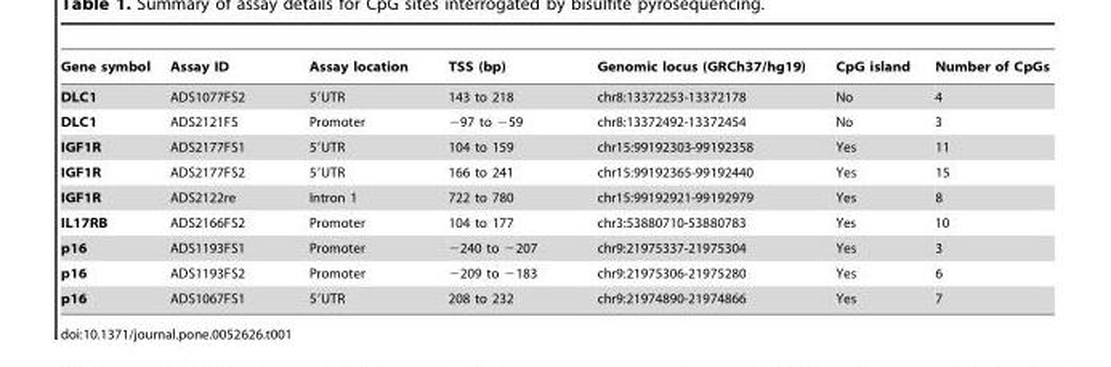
<table><thead><tr><td>Gene symbol</td><td>Assay ID</td><td>Assay location</td><td>TSS (bp)</td><td>Genomic locus (GRCh37/hg19)</td><td>CpG island</td><td>Number of CpGs</td></tr></thead><tbody><tr><td>DLC1</td><td>ADS1077FS2</td><td>5′UTR</td><td>143 to 218</td><td>chr8:13372253-13372178</td><td>No</td><td>4</td></tr><tr><td>DLC1</td><td>ADS2121FS</td><td>Promoter</td><td>−97 to −59</td><td>chr8:13372492-13372454</td><td>No</td><td>3</td></tr><tr><td>IGF1R</td><td>ADS2177FS1</td><td>5′UTR</td><td>104 to 159</td><td>chr15:99192303-99192358</td><td>Yes</td><td>11</td></tr><tr><td>IGF1R</td><td>ADS2177FS2</td><td>5′UTR</td><td>166 to 241</td><td>chr15:99192365-99192440</td><td>Yes</td><td>15</td></tr><tr><td>IGF1R</td><td>ADS2122re</td><td>Intron 1</td><td>722 to 780</td><td>chr15:99192921-99192979</td><td>Yes</td><td>8</td></tr><tr><td>IL17RB</td><td>ADS2166FS2</td><td>Promoter</td><td>104 to 177</td><td>chr3:53880710-53880783</td><td>Yes</td><td>10</td></tr><tr><td>p16</td><td>ADS1193FS1</td><td>Promoter</td><td>−240 to −207</td><td>chr9:21975337-21975304</td><td>Yes</td><td>3</td></tr><tr><td>p16</td><td>ADS1193FS2</td><td>Promoter</td><td>−209 to −183</td><td>chr9:21975306-21975280</td><td>Yes</td><td>6</td></tr><tr><td>p16</td><td>ADS1067FS1</td><td>5′UTR</td><td>208 to 232</td><td>chr9:21974890-21974866</td><td>Yes</td><td>7</td></tr></tbody></table>